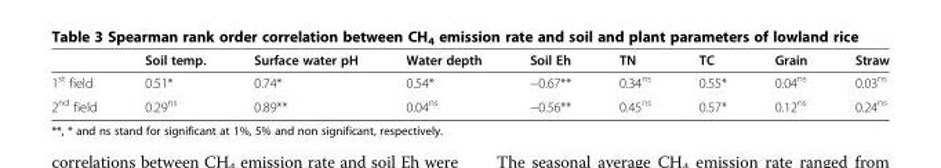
<table><thead><tr><td></td><td>Soil temp.</td><td>Surface water pH</td><td>Water depth</td><td>Soil Eh</td><td>TN</td><td>TC</td><td>Grain</td><td>Straw</td></tr></thead><tbody><tr><td>1<sup>st</sup> field</td><td>0.51*</td><td>0.74*</td><td>0.54*</td><td>−0.67**</td><td>0.34<sup>ns</sup></td><td>0.55*</td><td>0.04<sup>ns</sup></td><td>0.03<sup>ns</sup></td></tr><tr><td>2<sup>nd</sup> field</td><td>0.29<sup>ns</sup></td><td>0.89**</td><td>0.04<sup>ns</sup></td><td>−0.56**</td><td>0.45<sup>ns</sup></td><td>0.57*</td><td>0.12<sup>ns</sup></td><td>0.24<sup>ns</sup></td></tr></tbody></table>